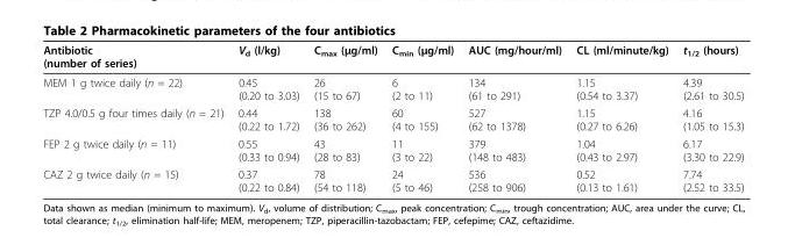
<table><thead><tr><td>Antibiotic (number of series)</td><td>V<sub>d</sub> (l/kg)</td><td>C<sub>max</sub> (μg/ml)</td><td>C<sub>min</sub> (μg/ml)</td><td>AUC (mg/hour/ml)</td><td>CL (ml/minute/kg)</td><td>t<sub>1/2</sub> (hours)</td></tr></thead><tbody><tr><td>MEM 1 g twice daily (n = 22)</td><td>0.45 (0.20 to 3.03)</td><td>26 (15 to 67)</td><td>6 (2 to 11)</td><td>134 (61 to 291)</td><td>1.15 (0.54 to 3.37)</td><td>4.39 (2.61 to 30.5)</td></tr><tr><td>TZP 4.0/0.5 g four times daily (n = 21)</td><td>0.44 (0.22 to 1.72)</td><td>138 (36 to 262)</td><td>60 (4 to 155)</td><td>527 (62 to 1378)</td><td>1.15 (0.27 to 6.26)</td><td>4.16 (1.05 to 15.3)</td></tr><tr><td>FEP 2 g twice daily (n = 11)</td><td>0.55 (0.33 to 0.94)</td><td>43 (28 to 83)</td><td>11 (3 to 22)</td><td>379 (148 to 483)</td><td>1.04 (0.43 to 2.97)</td><td>6.17 (3.30 to 22.9)</td></tr><tr><td>CAZ 2 g twice daily (n = 15)</td><td>0.37 (0.22 to 0.84)</td><td>78 (54 to 118)</td><td>24 (5 to 46)</td><td>536 (258 to 906)</td><td>0.52 (0.13 to 1.61)</td><td>7.74 (2.52 to 33.5)</td></tr></tbody></table>